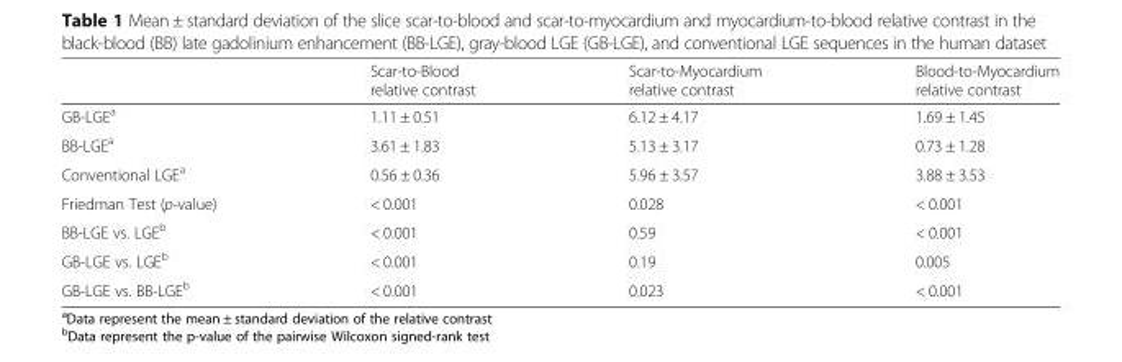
<table><thead><tr><td></td><td>Scar-to-Blood relative contrast</td><td>Scar-to-Myocardium relative contrast</td><td>Blood-to-Myocardium relative contrast</td></tr></thead><tbody><tr><td>GB-LGE<sup>a</sup></td><td>1.11 ± 0.51</td><td>6.12 ± 4.17</td><td>1.69 ± 1.45</td></tr><tr><td>BB-LGE<sup>a</sup></td><td>3.61 ± 1.83</td><td>5.13 ± 3.17</td><td>0.73 ± 1.28</td></tr><tr><td>Conventional LGE<sup>a</sup></td><td>0.56 ± 0.36</td><td>5.96 ± 3.57</td><td>3.88 ± 3.53</td></tr><tr><td>Friedman Test (p-value)</td><td>&lt; 0.001</td><td>0.028</td><td>&lt; 0.001</td></tr><tr><td>BB-LGE vs. LGE<sup>b</sup></td><td>&lt; 0.001</td><td>0.59</td><td>&lt; 0.001</td></tr><tr><td>GB-LGE vs. LGE<sup>b</sup></td><td>&lt; 0.001</td><td>0.19</td><td>0.005</td></tr><tr><td>GB-LGE vs. BB-LGE<sup>b</sup></td><td>&lt; 0.001</td><td>0.023</td><td>&lt; 0.001</td></tr></tbody></table>